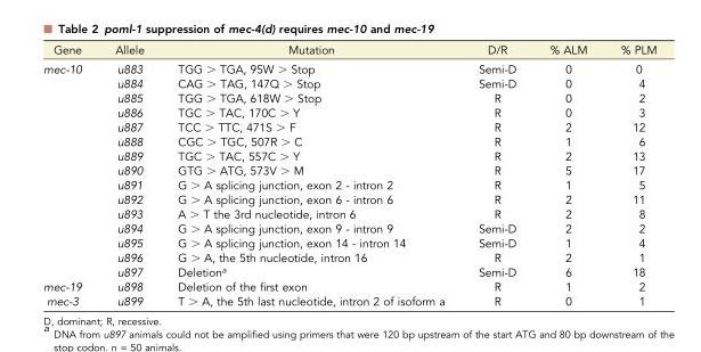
<table><thead><tr><td>Gene</td><td>Allele</td><td>Mutation</td><td>D/R</td><td>% ALM</td><td>% PLM</td></tr></thead><tbody><tr><td rowspan="15">mec-10</td><td>u883</td><td>TGG &gt; TGA, 95W &gt; Stop</td><td>Semi-D</td><td>0</td><td>0</td></tr><tr><td>u884</td><td>CAG &gt; TAG, 147Q &gt; Stop</td><td>Semi-D</td><td>0</td><td>4</td></tr><tr><td>u885</td><td>TGG &gt; TGA, 618W &gt; Stop</td><td>R</td><td>0</td><td>2</td></tr><tr><td>u886</td><td>TGC &gt; TAC, 170C &gt; Y</td><td>R</td><td>0</td><td>3</td></tr><tr><td>u887</td><td>TCC &gt; TTC, 471S &gt; F</td><td>R</td><td>2</td><td>12</td></tr><tr><td>u888</td><td>CGC &gt; TGC, 507R &gt; C</td><td>R</td><td>1</td><td>6</td></tr><tr><td>u889</td><td>TGC &gt; TAC, 557C &gt; Y</td><td>R</td><td>2</td><td>13</td></tr><tr><td>u890</td><td>GTG &gt; ATG, 573V &gt; M</td><td>R</td><td>5</td><td>17</td></tr><tr><td>u891</td><td>G &gt; A splicing junction, exon 2 - intron 2</td><td>R</td><td>1</td><td>5</td></tr><tr><td>u892</td><td>G &gt; A splicing junction, exon 6 - intron 6</td><td>R</td><td>2</td><td>11</td></tr><tr><td>u893</td><td>A &gt; T the 3rd nucleotide, intron 6</td><td>R</td><td>2</td><td>8</td></tr><tr><td>u894</td><td>G &gt; A splicing junction, exon 9 - intron 9</td><td>Semi-D</td><td>2</td><td>2</td></tr><tr><td>u895</td><td>G &gt; A splicing junction, exon 14 - intron 14</td><td>Semi-D</td><td>1</td><td>4</td></tr><tr><td>u896</td><td>G &gt; A, the 5th nucleotide, intron 16</td><td>R</td><td>2</td><td>1</td></tr><tr><td>u897</td><td>Deletion<sup>a</sup></td><td>Semi-D</td><td>6</td><td>18</td></tr><tr><td>mec-19</td><td>u898</td><td>Deletion of the first exon</td><td>R</td><td>1</td><td>2</td></tr><tr><td>mec-3</td><td>u899</td><td>T &gt; A, the 5th last nucleotide, intron 2 of isoform a</td><td>R</td><td>0</td><td>1</td></tr></tbody></table>